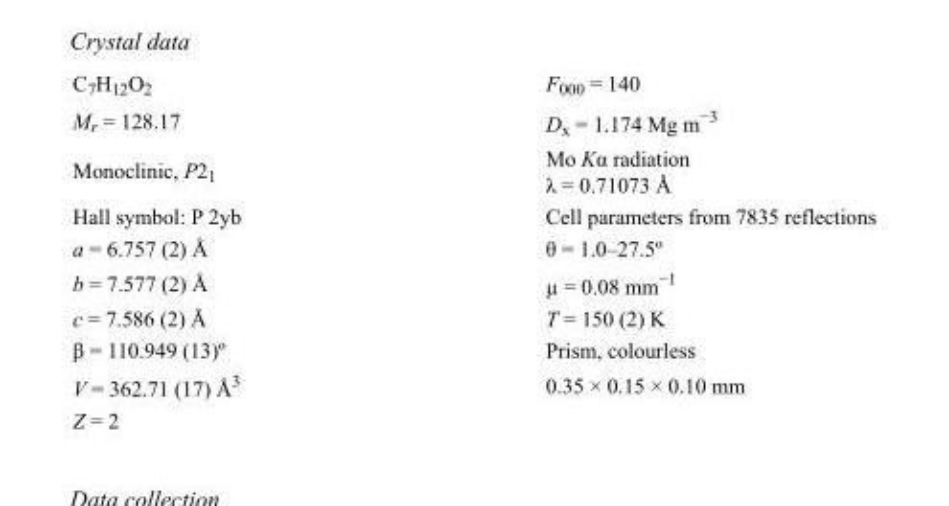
<table><tbody><tr><td>C<sub>7</sub>H<sub>12</sub>O<sub>2</sub></td><td>F<sub>000</sub> = 140</td></tr><tr><td>M<sub>r</sub> = 128.17</td><td>D<sub>x</sub> = 1.174 Mg m<sup>−3</sup></td></tr><tr><td>Monoclinic, P2<sub>1</sub></td><td>Mo Kα radiation λ = 0.71073 Å</td></tr><tr><td>Hall symbol: P 2yb</td><td>Cell parameters from 7835 reflections</td></tr><tr><td>a = 6.757 (2) Å</td><td>θ = 1.0–27.5º</td></tr><tr><td>b = 7.577 (2) Å</td><td>µ = 0.08 mm<sup>−1</sup></td></tr><tr><td>c = 7.586 (2) Å</td><td>T = 150 (2) K</td></tr><tr><td>β = 110.949 (13)º</td><td>Prism, colourless</td></tr><tr><td>V = 362.71 (17) Å<sup>3</sup></td><td>0.35 × 0.15 × 0.10 mm</td></tr><tr><td>Z = 2</td><td></td></tr></tbody></table>